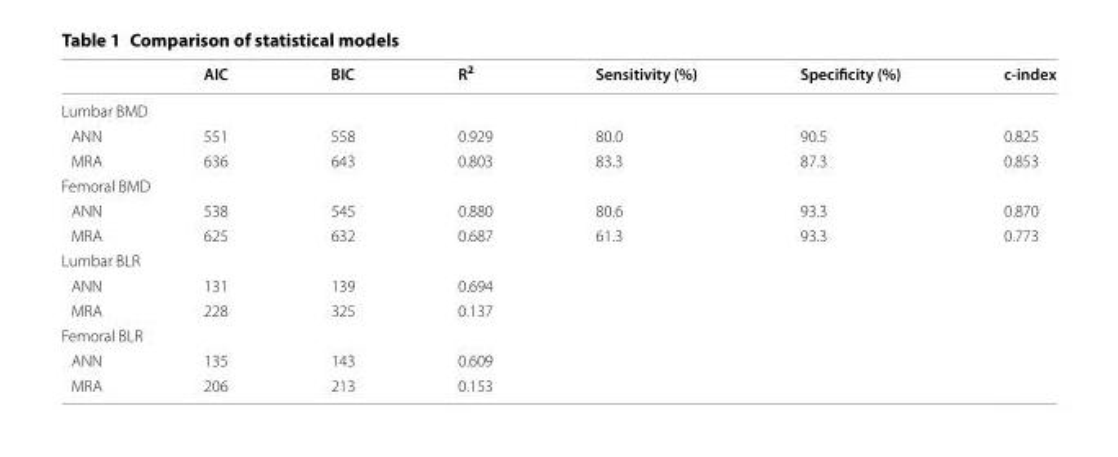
<table><thead><tr><td></td><td>AIC</td><td>BIC</td><td>R<sup>2</sup></td><td>Sensitivity (%)</td><td>Specificity (%)</td><td>c-index</td></tr></thead><tbody><tr><td colspan="7">Lumbar BMD</td></tr><tr><td>ANN</td><td>551</td><td>558</td><td>0.929</td><td>80.0</td><td>90.5</td><td>0.825</td></tr><tr><td>MRA</td><td>636</td><td>643</td><td>0.803</td><td>83.3</td><td>87.3</td><td>0.853</td></tr><tr><td colspan="7">Femoral BMD</td></tr><tr><td>ANN</td><td>538</td><td>545</td><td>0.880</td><td>80.6</td><td>93.3</td><td>0.870</td></tr><tr><td>MRA</td><td>625</td><td>632</td><td>0.687</td><td>61.3</td><td>93.3</td><td>0.773</td></tr><tr><td colspan="7">Lumbar BLR</td></tr><tr><td>ANN</td><td>131</td><td>139</td><td>0.694</td><td></td><td></td><td></td></tr><tr><td>MRA</td><td>228</td><td>325</td><td>0.137</td><td></td><td></td><td></td></tr><tr><td colspan="7">Femoral BLR</td></tr><tr><td>ANN</td><td>135</td><td>143</td><td>0.609</td><td></td><td></td><td></td></tr><tr><td>MRA</td><td>206</td><td>213</td><td>0.153</td><td></td><td></td><td></td></tr></tbody></table>